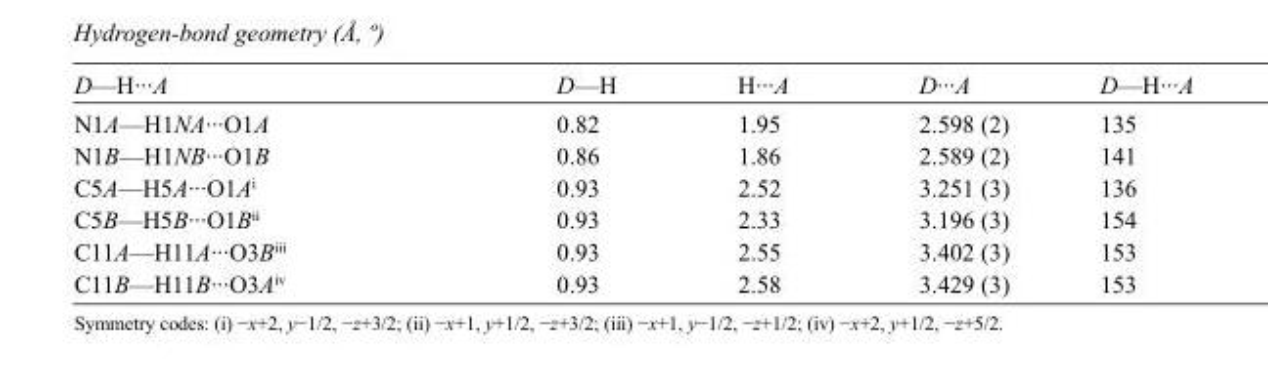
<table><tbody><tr><td>D—H···A</td><td>D—H</td><td>H···A</td><td>D···A</td><td>D—H···A</td></tr><tr><td>N1A—H1NA···O1A</td><td>0.82</td><td>1.95</td><td>2.598 (2)</td><td>135</td></tr><tr><td>N1B—H1NB···O1B</td><td>0.86</td><td>1.86</td><td>2.589 (2)</td><td>141</td></tr><tr><td>C5A—H5A···O1A<sup>i</sup></td><td>0.93</td><td>2.52</td><td>3.251 (3)</td><td>136</td></tr><tr><td>C5B—H5B···O1B<sup>ii</sup></td><td>0.93</td><td>2.33</td><td>3.196 (3)</td><td>154</td></tr><tr><td>C11A—H11A···O3B<sup>iii</sup></td><td>0.93</td><td>2.55</td><td>3.402 (3)</td><td>153</td></tr><tr><td>C11B—H11B···O3A<sup>iv</sup></td><td>0.93</td><td>2.58</td><td>3.429 (3)</td><td>153</td></tr></tbody></table>